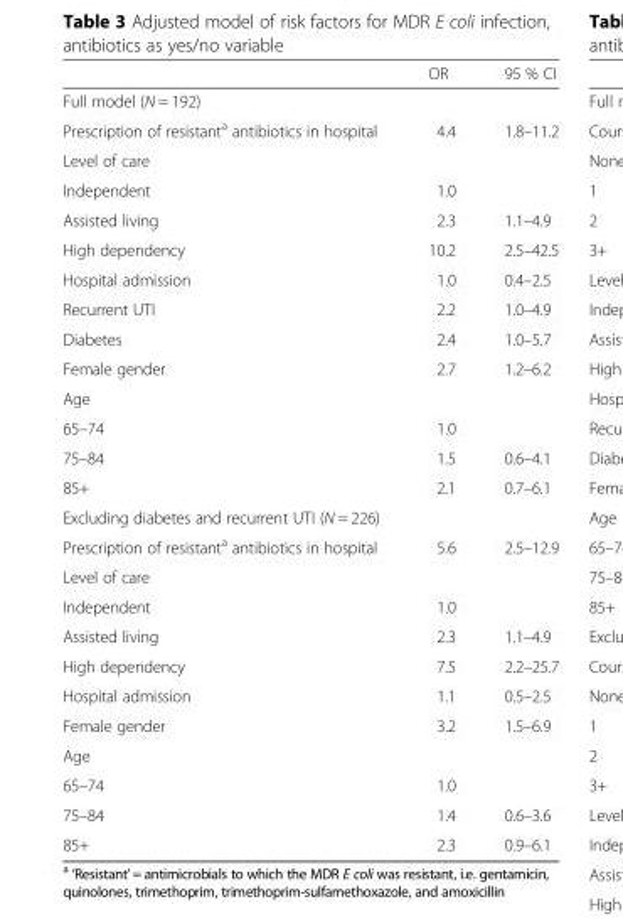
<table><thead><tr><td></td><td>OR</td><td>95 % CI</td></tr></thead><tbody><tr><td colspan="3">Full model (N = 192)</td></tr><tr><td>Prescription of resistant<sup>a</sup> antibiotics in hospital</td><td>4.4</td><td>1.8–11.2</td></tr><tr><td colspan="3">Level of care</td></tr><tr><td>Independent</td><td>1.0</td><td></td></tr><tr><td>Assisted living</td><td>2.3</td><td>1.1–4.9</td></tr><tr><td>High dependency</td><td>10.2</td><td>2.5–42.5</td></tr><tr><td>Hospital admission</td><td>1.0</td><td>0.4–2.5</td></tr><tr><td>Recurrent UTI</td><td>2.2</td><td>1.0–4.9</td></tr><tr><td>Diabetes</td><td>2.4</td><td>1.0–5.7</td></tr><tr><td>Female gender</td><td>2.7</td><td>1.2–6.2</td></tr><tr><td colspan="3">Age</td></tr><tr><td>65–74</td><td>1.0</td><td></td></tr><tr><td>75–84</td><td>1.5</td><td>0.6–4.1</td></tr><tr><td>85+</td><td>2.1</td><td>0.7–6.1</td></tr><tr><td colspan="3">Excluding diabetes and recurrent UTI (N = 226)</td></tr><tr><td>Prescription of resistant<sup>a</sup> antibiotics in hospital</td><td>5.6</td><td>2.5–12.9</td></tr><tr><td colspan="3">Level of care</td></tr><tr><td>Independent</td><td>1.0</td><td></td></tr><tr><td>Assisted living</td><td>2.3</td><td>1.1–4.9</td></tr><tr><td>High dependency</td><td>7.5</td><td>2.2–25.7</td></tr><tr><td>Hospital admission</td><td>1.1</td><td>0.5–2.5</td></tr><tr><td>Female gender</td><td>3.2</td><td>1.5–6.9</td></tr><tr><td colspan="3">Age</td></tr><tr><td>65–74</td><td>1.0</td><td></td></tr><tr><td>75–84</td><td>1.4</td><td>0.6–3.6</td></tr><tr><td>85+</td><td>2.3</td><td>0.9–6.1</td></tr></tbody></table>